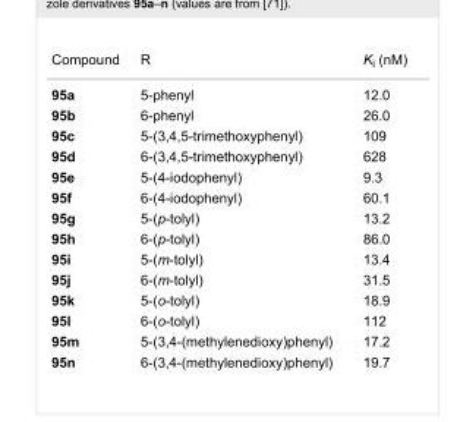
<table><tbody><tr><td>Compound</td><td>R</td><td>K<sub>i</sub> (nM)</td></tr><tr><td>95a</td><td>5-phenyl</td><td>12.0</td></tr><tr><td>95b</td><td>6-phenyl</td><td>26.0</td></tr><tr><td>95c</td><td>5-(3,4,5-trimethoxyphenyl)</td><td>109</td></tr><tr><td>95d</td><td>6-(3,4,5-trimethoxyphenyl)</td><td>628</td></tr><tr><td>95e</td><td>5-(4-iodophenyl)</td><td>9.3</td></tr><tr><td>95f</td><td>6-(4-iodophenyl)</td><td>60.1</td></tr><tr><td>95g</td><td>5-(p-tolyl)</td><td>13.2</td></tr><tr><td>95h</td><td>6-(p-tolyl)</td><td>86.0</td></tr><tr><td>95i</td><td>5-(m-tolyl)</td><td>13.4</td></tr><tr><td>95j</td><td>6-(m-tolyl)</td><td>31.5</td></tr><tr><td>95k</td><td>5-(o-tolyl)</td><td>18.9</td></tr><tr><td>95l</td><td>6-(o-tolyl)</td><td>112</td></tr><tr><td>95m</td><td>5-(3,4-(methylenedioxy)phenyl)</td><td>17.2</td></tr><tr><td>95n</td><td>6-(3,4-(methylenedioxy)phenyl)</td><td>19.7</td></tr></tbody></table>